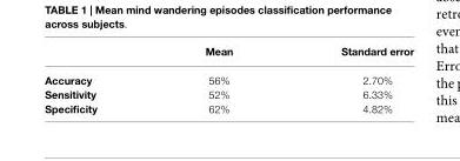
<table><thead><tr><td></td><td>Mean</td><td>Standard error</td></tr></thead><tbody><tr><td>Accuracy</td><td>56%</td><td>2.70%</td></tr><tr><td>Sensitivity</td><td>52%</td><td>6.33%</td></tr><tr><td>Specificity</td><td>62%</td><td>4.82%</td></tr></tbody></table>